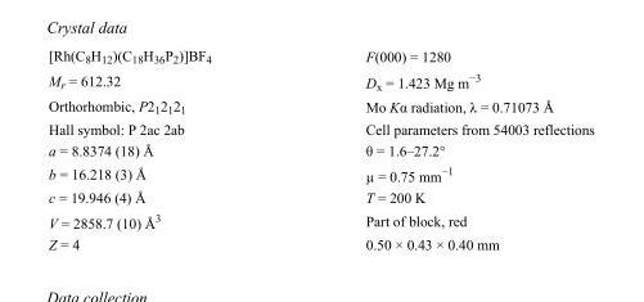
<table><tbody><tr><td>[Rh(C<sub>8</sub>H<sub>12</sub>)(C<sub>18</sub>H<sub>36</sub>P<sub>2</sub>)]BF<sub>4</sub></td><td>F(000) = 1280</td></tr><tr><td>M<sub>r</sub> = 612.32</td><td>D<sub>x</sub> = 1.423 Mg m<sup>−3</sup></td></tr><tr><td>Orthorhombic, P2<sub>1</sub>2<sub>1</sub>2<sub>1</sub></td><td>Mo Kα radiation, λ = 0.71073 Å</td></tr><tr><td>Hall symbol: P 2ac 2ab</td><td>Cell parameters from 54003 reflections</td></tr><tr><td>a = 8.8374 (18) Å</td><td>θ = 1.6–27.2°</td></tr><tr><td>b = 16.218 (3) Å</td><td>µ = 0.75 mm<sup>−1</sup></td></tr><tr><td>c = 19.946 (4) Å</td><td>T = 200 K</td></tr><tr><td>V = 2858.7 (10) Å<sup>3</sup></td><td>Part of block, red</td></tr><tr><td>Z = 4</td><td>0.50 × 0.43 × 0.40 mm</td></tr></tbody></table>